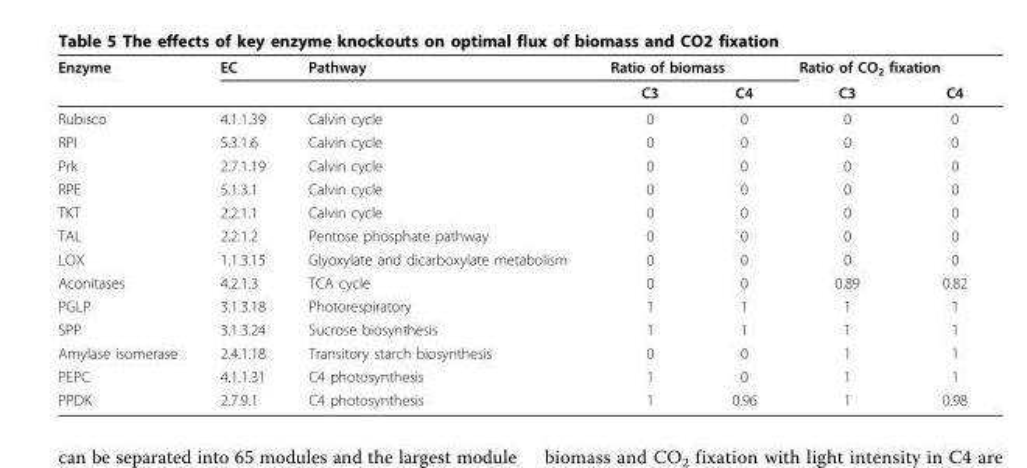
<table><thead><tr><td rowspan="2">Enzyme</td><td rowspan="2">EC</td><td rowspan="2">Pathway</td><td colspan="2">Ratio of biomass</td><td colspan="2">Ratio of CO<sub>2</sub> fixation</td></tr><tr><td>C3</td><td>C4</td><td>C3</td><td>C4</td></tr></thead><tbody><tr><td>Rubisco</td><td>4.1.1.39</td><td>Calvin cycle</td><td>0</td><td>0</td><td>0</td><td>0</td></tr><tr><td>RPI</td><td>5.3.1.6</td><td>Calvin cycle</td><td>0</td><td>0</td><td>0</td><td>0</td></tr><tr><td>Prk</td><td>2.7.1.19</td><td>Calvin cycle</td><td>0</td><td>0</td><td>0</td><td>0</td></tr><tr><td>RPE</td><td>5.1.3.1</td><td>Calvin cycle</td><td>0</td><td>0</td><td>0</td><td>0</td></tr><tr><td>TKT</td><td>2.2.1.1</td><td>Calvin cycle</td><td>0</td><td>0</td><td>0</td><td>0</td></tr><tr><td>TAL</td><td>2.2.1.2</td><td>Pentose phosphate pathway</td><td>0</td><td>0</td><td>0</td><td>0</td></tr><tr><td>LOX</td><td>1.1.3.15</td><td>Glyoxylate and dicarboxylate metabolism</td><td>0</td><td>0</td><td>0</td><td>0</td></tr><tr><td>Aconitases</td><td>4.2.1.3</td><td>TCA cycle</td><td>0</td><td>0</td><td>0.89</td><td>0.82</td></tr><tr><td>PGLP</td><td>3.1.3.18</td><td>Photorespiratory</td><td>1</td><td>1</td><td>1</td><td>1</td></tr><tr><td>SPP</td><td>3.1.3.24</td><td>Sucrose biosynthesis</td><td>1</td><td>1</td><td>1</td><td>1</td></tr><tr><td>Amylase isomerase</td><td>2.4.1.18</td><td>Transitory starch biosynthesis</td><td>0</td><td>0</td><td>1</td><td>1</td></tr><tr><td>PEPC</td><td>4.1.1.31</td><td>C4 photosynthesis</td><td>1</td><td>0</td><td>1</td><td>1</td></tr><tr><td>PPDK</td><td>2.7.9.1</td><td>C4 photosynthesis</td><td>1</td><td>0.96</td><td>1</td><td>0.98</td></tr></tbody></table>